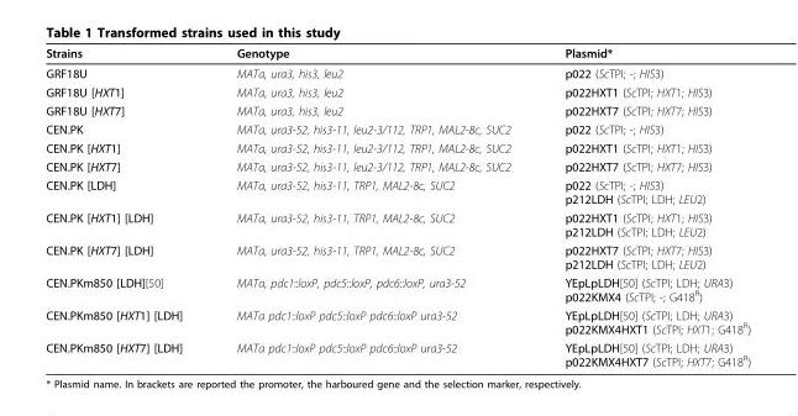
<table><thead><tr><td>Strains</td><td>Genotype</td><td>Plasmid*</td></tr></thead><tbody><tr><td>GRF18U</td><td>MATa, ura3, his3, leu2</td><td>p022 (ScTPI; -; HIS3)</td></tr><tr><td>GRF18U [HXT1]</td><td>MATa, ura3, his3, leu2</td><td>p022HXT1 (ScTPI; HXT1; HIS3)</td></tr><tr><td>GRF18U [HXT7]</td><td>MATa, ura3, his3, leu2</td><td>p022HXT7 (ScTPI; HXT7; HIS3)</td></tr><tr><td>CEN.PK</td><td>MATa, ura3-52, his3-11, leu2-3/112, TRP1, MAL2-8c, SUC2</td><td>p022 (ScTPI; -; HIS3)</td></tr><tr><td>CEN.PK [HXT1]</td><td>MATa, ura3-52, his3-11, leu2-3/112, TRP1, MAL2-8c, SUC2</td><td>p022HXT1 (ScTPI; HXT1; HIS3)</td></tr><tr><td>CEN.PK [HXT7]</td><td>MATa, ura3-52, his3-11, leu2-3/112, TRP1, MAL2-8c, SUC2</td><td>p022HXT7 (ScTPI; HXT7; HIS3)</td></tr><tr><td>CEN.PK [LDH]</td><td>MATa, ura3-52, his3-11, TRP1, MAL2-8c, SUC2</td><td>p022 (ScTPI; -; HIS3) p212LDH (ScTPI; LDH; LEU2)</td></tr><tr><td>CEN.PK [HXT1] [LDH]</td><td>MATa, ura3-52, his3-11, TRP1, MAL2-8c, SUC2</td><td>p022HXT1 (ScTPI; HXT1; HIS3) p212LDH (ScTPI; LDH; LEU2)</td></tr><tr><td>CEN.PK [HXT7] [LDH]</td><td>MATa, ura3-52, his3-11, TRP1, MAL2-8c, SUC2</td><td>p022HXT7 (ScTPI; HXT7; HIS3) p212LDH (ScTPI; LDH; LEU2)</td></tr><tr><td>CEN.PKm850 [LDH][50]</td><td>MATa, pdc1::loxP, pdc5::loxP, pdc6::loxP, ura3-52</td><td>YEpLpLDH[50] (ScTPI; LDH; URA3) p022KMX4 (ScTPI; -; G418<sup>R</sup>)</td></tr><tr><td>CEN.PKm850 [HXT1] [LDH]</td><td>MATa pdc1::loxP pdc5::loxP pdc6::loxP ura3-52</td><td>YEpLpLDH[50] (ScTPI; LDH; URA3) p022KMX4HXT1 (ScTPI; HXT1; G418<sup>R</sup>)</td></tr><tr><td>CEN.PKm850 [HXT7] [LDH]</td><td>MATa pdc1::loxP pdc5::loxP pdc6::loxP ura3-52</td><td>YEpLpLDH[50] (ScTPI; LDH; URA3) p022KMX4HXT7 (ScTPI; HXT7; G418<sup>R</sup>)</td></tr></tbody></table>